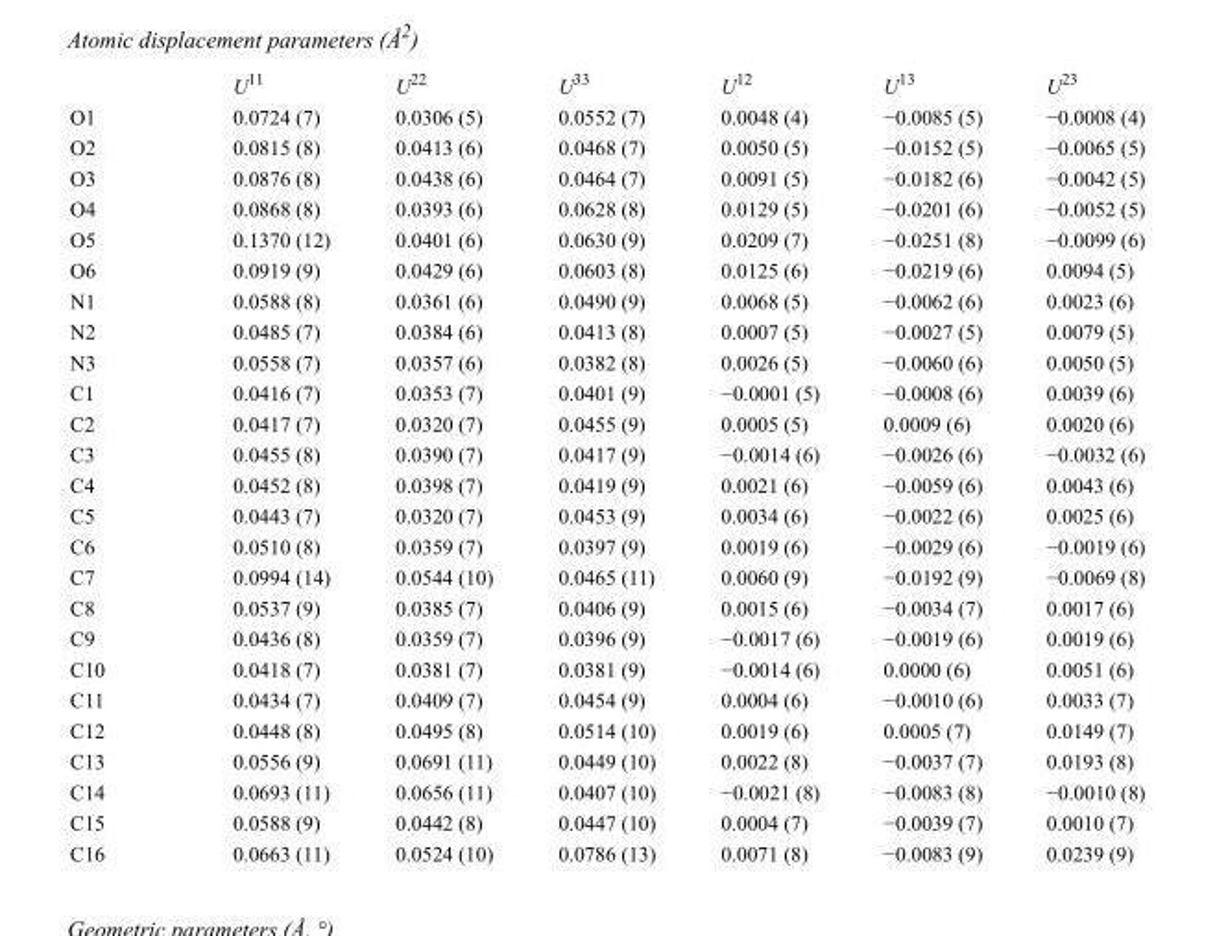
<table><thead><tr><td></td><td>U<sup>11</sup></td><td>U<sup>22</sup></td><td>U<sup>33</sup></td><td>U<sup>12</sup></td><td>U<sup>13</sup></td><td>U<sup>23</sup></td></tr></thead><tbody><tr><td>O1</td><td>0.0724 (7)</td><td>0.0306 (5)</td><td>0.0552 (7)</td><td>0.0048 (4)</td><td>−0.0085 (5)</td><td>−0.0008 (4)</td></tr><tr><td>O2</td><td>0.0815 (8)</td><td>0.0413 (6)</td><td>0.0468 (7)</td><td>0.0050 (5)</td><td>−0.0152 (5)</td><td>−0.0065 (5)</td></tr><tr><td>O3</td><td>0.0876 (8)</td><td>0.0438 (6)</td><td>0.0464 (7)</td><td>0.0091 (5)</td><td>−0.0182 (6)</td><td>−0.0042 (5)</td></tr><tr><td>O4</td><td>0.0868 (8)</td><td>0.0393 (6)</td><td>0.0628 (8)</td><td>0.0129 (5)</td><td>−0.0201 (6)</td><td>−0.0052 (5)</td></tr><tr><td>O5</td><td>0.1370 (12)</td><td>0.0401 (6)</td><td>0.0630 (9)</td><td>0.0209 (7)</td><td>−0.0251 (8)</td><td>−0.0099 (6)</td></tr><tr><td>O6</td><td>0.0919 (9)</td><td>0.0429 (6)</td><td>0.0603 (8)</td><td>0.0125 (6)</td><td>−0.0219 (6)</td><td>0.0094 (5)</td></tr><tr><td>N1</td><td>0.0588 (8)</td><td>0.0361 (6)</td><td>0.0490 (9)</td><td>0.0068 (5)</td><td>−0.0062 (6)</td><td>0.0023 (6)</td></tr><tr><td>N2</td><td>0.0485 (7)</td><td>0.0384 (6)</td><td>0.0413 (8)</td><td>0.0007 (5)</td><td>−0.0027 (5)</td><td>0.0079 (5)</td></tr><tr><td>N3</td><td>0.0558 (7)</td><td>0.0357 (6)</td><td>0.0382 (8)</td><td>0.0026 (5)</td><td>−0.0060 (6)</td><td>0.0050 (5)</td></tr><tr><td>C1</td><td>0.0416 (7)</td><td>0.0353 (7)</td><td>0.0401 (9)</td><td>−0.0001 (5)</td><td>−0.0008 (6)</td><td>0.0039 (6)</td></tr><tr><td>C2</td><td>0.0417 (7)</td><td>0.0320 (7)</td><td>0.0455 (9)</td><td>0.0005 (5)</td><td>0.0009 (6)</td><td>0.0020 (6)</td></tr><tr><td>C3</td><td>0.0455 (8)</td><td>0.0390 (7)</td><td>0.0417 (9)</td><td>−0.0014 (6)</td><td>−0.0026 (6)</td><td>−0.0032 (6)</td></tr><tr><td>C4</td><td>0.0452 (8)</td><td>0.0398 (7)</td><td>0.0419 (9)</td><td>0.0021 (6)</td><td>−0.0059 (6)</td><td>0.0043 (6)</td></tr><tr><td>C5</td><td>0.0443 (7)</td><td>0.0320 (7)</td><td>0.0453 (9)</td><td>0.0034 (6)</td><td>−0.0022 (6)</td><td>0.0025 (6)</td></tr><tr><td>C6</td><td>0.0510 (8)</td><td>0.0359 (7)</td><td>0.0397 (9)</td><td>0.0019 (6)</td><td>−0.0029 (6)</td><td>−0.0019 (6)</td></tr><tr><td>C7</td><td>0.0994 (14)</td><td>0.0544 (10)</td><td>0.0465 (11)</td><td>0.0060 (9)</td><td>−0.0192 (9)</td><td>−0.0069 (8)</td></tr><tr><td>C8</td><td>0.0537 (9)</td><td>0.0385 (7)</td><td>0.0406 (9)</td><td>0.0015 (6)</td><td>−0.0034 (7)</td><td>0.0017 (6)</td></tr><tr><td>C9</td><td>0.0436 (8)</td><td>0.0359 (7)</td><td>0.0396 (9)</td><td>−0.0017 (6)</td><td>−0.0019 (6)</td><td>0.0019 (6)</td></tr><tr><td>C10</td><td>0.0418 (7)</td><td>0.0381 (7)</td><td>0.0381 (9)</td><td>−0.0014 (6)</td><td>0.0000 (6)</td><td>0.0051 (6)</td></tr><tr><td>C11</td><td>0.0434 (7)</td><td>0.0409 (7)</td><td>0.0454 (9)</td><td>0.0004 (6)</td><td>−0.0010 (6)</td><td>0.0033 (7)</td></tr><tr><td>C12</td><td>0.0448 (8)</td><td>0.0495 (8)</td><td>0.0514 (10)</td><td>0.0019 (6)</td><td>0.0005 (7)</td><td>0.0149 (7)</td></tr><tr><td>C13</td><td>0.0556 (9)</td><td>0.0691 (11)</td><td>0.0449 (10)</td><td>0.0022 (8)</td><td>−0.0037 (7)</td><td>0.0193 (8)</td></tr><tr><td>C14</td><td>0.0693 (11)</td><td>0.0656 (11)</td><td>0.0407 (10)</td><td>−0.0021 (8)</td><td>−0.0083 (8)</td><td>−0.0010 (8)</td></tr><tr><td>C15</td><td>0.0588 (9)</td><td>0.0442 (8)</td><td>0.0447 (10)</td><td>0.0004 (7)</td><td>−0.0039 (7)</td><td>0.0010 (7)</td></tr><tr><td>C16</td><td>0.0663 (11)</td><td>0.0524 (10)</td><td>0.0786 (13)</td><td>0.0071 (8)</td><td>−0.0083 (9)</td><td>0.0239 (9)</td></tr></tbody></table>